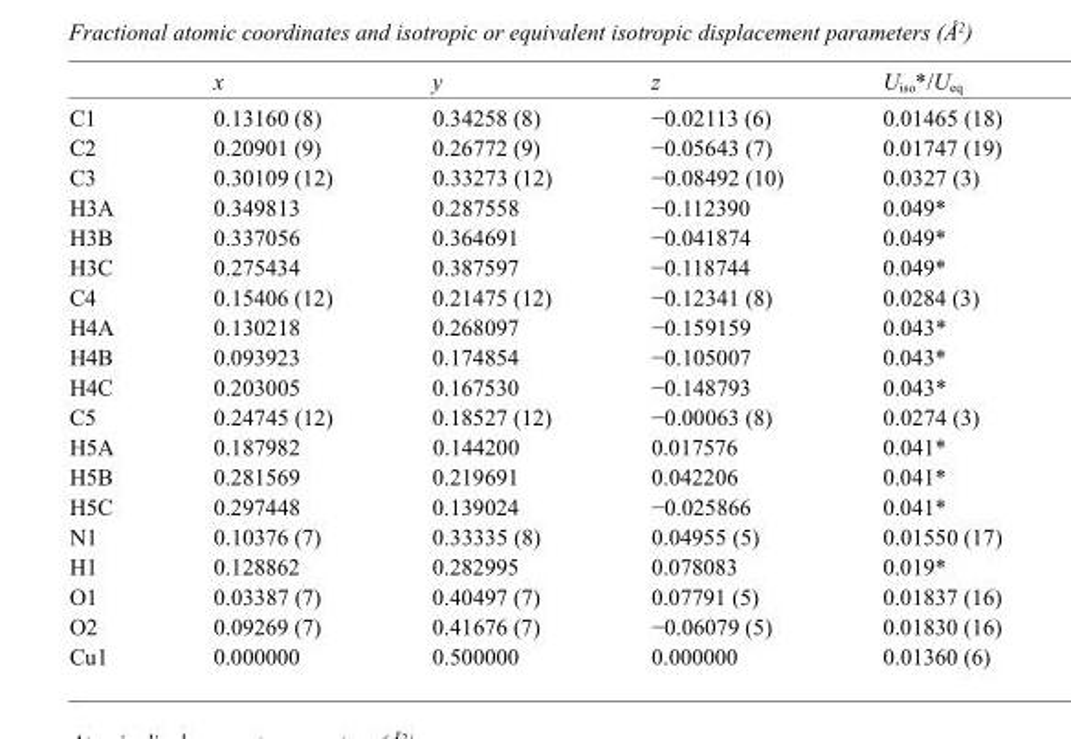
<table><thead><tr><td></td><td>x</td><td>y</td><td>z</td><td>U<sub>iso</sub>*/U<sub>eq</sub></td></tr></thead><tbody><tr><td>C1</td><td>0.13160 (8)</td><td>0.34258 (8)</td><td>−0.02113 (6)</td><td>0.01465 (18)</td></tr><tr><td>C2</td><td>0.20901 (9)</td><td>0.26772 (9)</td><td>−0.05643 (7)</td><td>0.01747 (19)</td></tr><tr><td>C3</td><td>0.30109 (12)</td><td>0.33273 (12)</td><td>−0.08492 (10)</td><td>0.0327 (3)</td></tr><tr><td>H3A</td><td>0.349813</td><td>0.287558</td><td>−0.112390</td><td>0.049*</td></tr><tr><td>H3B</td><td>0.337056</td><td>0.364691</td><td>−0.041874</td><td>0.049*</td></tr><tr><td>H3C</td><td>0.275434</td><td>0.387597</td><td>−0.118744</td><td>0.049*</td></tr><tr><td>C4</td><td>0.15406 (12)</td><td>0.21475 (12)</td><td>−0.12341 (8)</td><td>0.0284 (3)</td></tr><tr><td>H4A</td><td>0.130218</td><td>0.268097</td><td>−0.159159</td><td>0.043*</td></tr><tr><td>H4B</td><td>0.093923</td><td>0.174854</td><td>−0.105007</td><td>0.043*</td></tr><tr><td>H4C</td><td>0.203005</td><td>0.167530</td><td>−0.148793</td><td>0.043*</td></tr><tr><td>C5</td><td>0.24745 (12)</td><td>0.18527 (12)</td><td>−0.00063 (8)</td><td>0.0274 (3)</td></tr><tr><td>H5A</td><td>0.187982</td><td>0.144200</td><td>0.017576</td><td>0.041*</td></tr><tr><td>H5B</td><td>0.281569</td><td>0.219691</td><td>0.042206</td><td>0.041*</td></tr><tr><td>H5C</td><td>0.297448</td><td>0.139024</td><td>−0.025866</td><td>0.041*</td></tr><tr><td>N1</td><td>0.10376 (7)</td><td>0.33335 (8)</td><td>0.04955 (5)</td><td>0.01550 (17)</td></tr><tr><td>H1</td><td>0.128862</td><td>0.282995</td><td>0.078083</td><td>0.019*</td></tr><tr><td>O1</td><td>0.03387 (7)</td><td>0.40497 (7)</td><td>0.07791 (5)</td><td>0.01837 (16)</td></tr><tr><td>O2</td><td>0.09269 (7)</td><td>0.41676 (7)</td><td>−0.06079 (5)</td><td>0.01830 (16)</td></tr><tr><td>Cu1</td><td>0.000000</td><td>0.500000</td><td>0.000000</td><td>0.01360 (6)</td></tr></tbody></table>